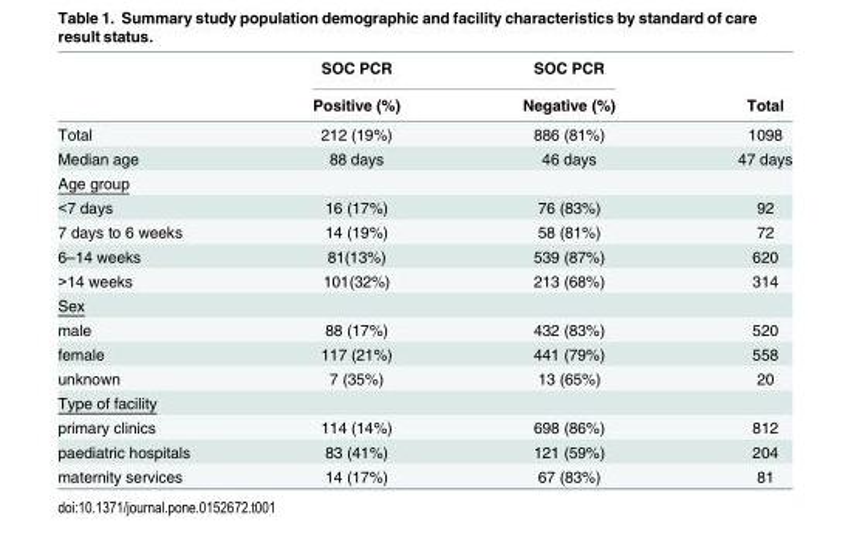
<table><thead><tr><td rowspan="2"></td><td rowspan="2">SOC PCR Positive (%)</td><td rowspan="2">SOC PCR Negative (%)</td><td rowspan="2">Total</td></tr><tr></tr></thead><tbody><tr><td>Total</td><td>212 (19%)</td><td>886 (81%)</td><td>1098</td></tr><tr><td>Median age</td><td>88 days</td><td>46 days</td><td>47 days</td></tr><tr><td colspan="4">Age group</td></tr><tr><td>&lt;7 days</td><td>16 (17%)</td><td>76 (83%)</td><td>92</td></tr><tr><td>7 days to 6 weeks</td><td>14 (19%)</td><td>58 (81%)</td><td>72</td></tr><tr><td>6–14 weeks</td><td>81(13%)</td><td>539 (87%)</td><td>620</td></tr><tr><td>&gt;14 weeks</td><td>101(32%)</td><td>213 (68%)</td><td>314</td></tr><tr><td colspan="4">Sex</td></tr><tr><td>male</td><td>88 (17%)</td><td>432 (83%)</td><td>520</td></tr><tr><td>female</td><td>117 (21%)</td><td>441 (79%)</td><td>558</td></tr><tr><td>unknown</td><td>7 (35%)</td><td>13 (65%)</td><td>20</td></tr><tr><td colspan="4">Type of facility</td></tr><tr><td>primary clinics</td><td>114 (14%)</td><td>698 (86%)</td><td>812</td></tr><tr><td>paediatric hospitals</td><td>83 (41%)</td><td>121 (59%)</td><td>204</td></tr><tr><td>maternity services</td><td>14 (17%)</td><td>67 (83%)</td><td>81</td></tr></tbody></table>